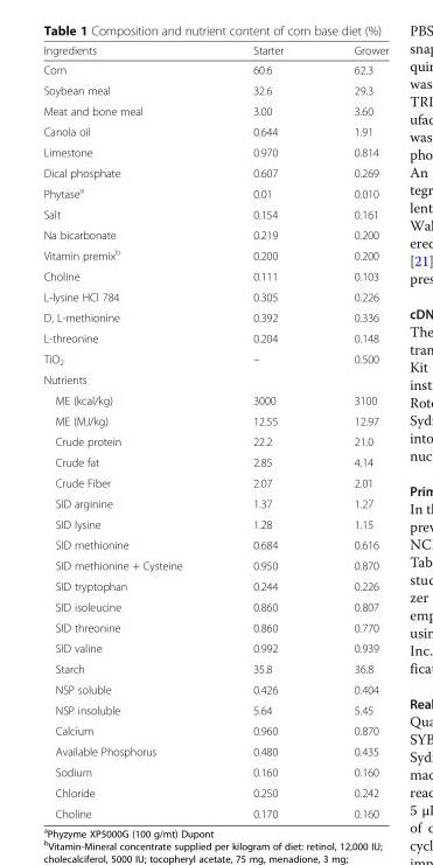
<table><thead><tr><td>Ingredients</td><td>Starter</td><td>Grower</td></tr></thead><tbody><tr><td>Corn</td><td>60.6</td><td>62.3</td></tr><tr><td>Soybean meal</td><td>32.6</td><td>29.3</td></tr><tr><td>Meat and bone meal</td><td>3.00</td><td>3.60</td></tr><tr><td>Canola oil</td><td>0.644</td><td>1.91</td></tr><tr><td>Limestone</td><td>0.970</td><td>0.814</td></tr><tr><td>Dical phosphate</td><td>0.607</td><td>0.269</td></tr><tr><td>Phytase<sup>a</sup></td><td>0.01</td><td>0.010</td></tr><tr><td>Salt</td><td>0.154</td><td>0.161</td></tr><tr><td>Na bicarbonate</td><td>0.219</td><td>0.200</td></tr><tr><td>Vitamin premix<sup>b</sup></td><td>0.200</td><td>0.200</td></tr><tr><td>Choline</td><td>0.111</td><td>0.103</td></tr><tr><td>L-lysine HCl 784</td><td>0.305</td><td>0.226</td></tr><tr><td>D, L-methionine</td><td>0.392</td><td>0.336</td></tr><tr><td>L-threonine</td><td>0.204</td><td>0.148</td></tr><tr><td>TiO<sub>2</sub></td><td>–</td><td>0.500</td></tr><tr><td colspan="3">Nutrients</td></tr><tr><td>ME (kcal/kg)</td><td>3000</td><td>3100</td></tr><tr><td>ME (MJ/kg)</td><td>12.55</td><td>12.97</td></tr><tr><td>Crude protein</td><td>22.2</td><td>21.0</td></tr><tr><td>Crude fat</td><td>2.85</td><td>4.14</td></tr><tr><td>Crude Fiber</td><td>2.07</td><td>2.01</td></tr><tr><td>SID arginine</td><td>1.37</td><td>1.27</td></tr><tr><td>SID lysine</td><td>1.28</td><td>1.15</td></tr><tr><td>SID methionine</td><td>0.684</td><td>0.616</td></tr><tr><td>SID methionine + Cysteine</td><td>0.950</td><td>0.870</td></tr><tr><td>SID tryptophan</td><td>0.244</td><td>0.226</td></tr><tr><td>SID isoleucine</td><td>0.860</td><td>0.807</td></tr><tr><td>SID threonine</td><td>0.860</td><td>0.770</td></tr><tr><td>SID valine</td><td>0.992</td><td>0.939</td></tr><tr><td>Starch</td><td>35.8</td><td>36.8</td></tr><tr><td>NSP soluble</td><td>0.426</td><td>0.404</td></tr><tr><td>NSP insoluble</td><td>5.64</td><td>5.45</td></tr><tr><td>Calcium</td><td>0.960</td><td>0.870</td></tr><tr><td>Available Phosphorus</td><td>0.480</td><td>0.435</td></tr><tr><td>Sodium</td><td>0.160</td><td>0.160</td></tr><tr><td>Chloride</td><td>0.250</td><td>0.242</td></tr><tr><td>Choline</td><td>0.170</td><td>0.160</td></tr></tbody></table>